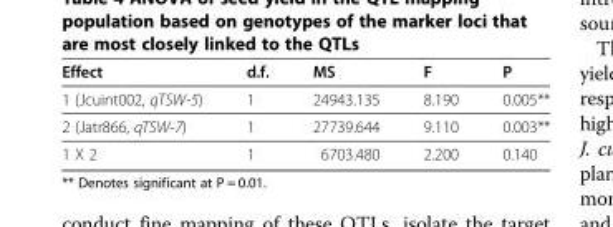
<table><thead><tr><td>Effect</td><td>d.f.</td><td>MS</td><td>F</td><td>P</td></tr></thead><tbody><tr><td>1 (Jcuint002, qTSW-5)</td><td>1</td><td>24943.135</td><td>8.190</td><td>0.005**</td></tr><tr><td>2 (Jatr866, qTSW-7)</td><td>1</td><td>27739.644</td><td>9.110</td><td>0.003**</td></tr><tr><td>1 X 2</td><td>1</td><td>6703.480</td><td>2.200</td><td>0.140</td></tr></tbody></table>